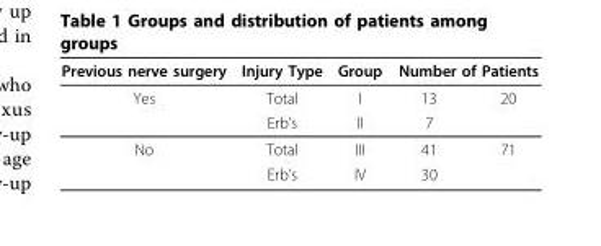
<table><thead><tr><td rowspan="2">Previous nerve surgery Yes</td><td rowspan="2">Injury Type Total</td><td rowspan="2">Group I</td><td colspan="2">Number of Patients</td></tr><tr><td>13</td><td>20</td></tr></thead><tbody><tr><td></td><td>Erb’s</td><td>II</td><td>7</td><td></td></tr><tr><td rowspan="2">No</td><td>Total</td><td>III</td><td>41</td><td>71</td></tr><tr><td>Erb’s</td><td>IV</td><td>30</td><td></td></tr></tbody></table>